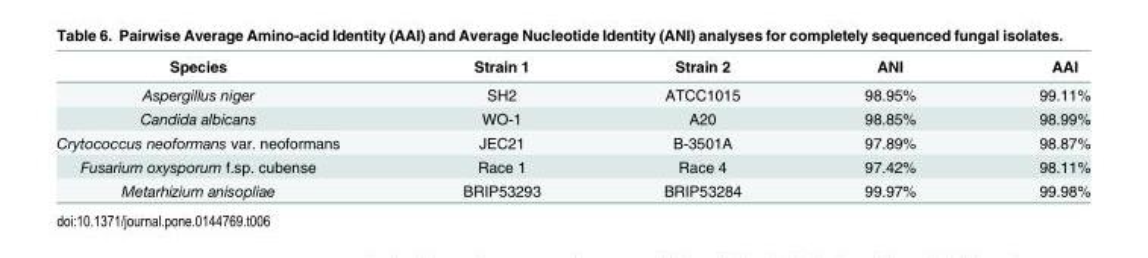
<table><thead><tr><td>Species</td><td>Strain 1</td><td>Strain 2</td><td>ANI</td><td>AAI</td></tr></thead><tbody><tr><td>Aspergillus niger</td><td>SH2</td><td>ATCC1015</td><td>98.95%</td><td>99.11%</td></tr><tr><td>Candida albicans</td><td>WO-1</td><td>A20</td><td>98.85%</td><td>98.99%</td></tr><tr><td>Crytococcus neoformans var. neoformans</td><td>JEC21</td><td>B-3501A</td><td>97.89%</td><td>98.87%</td></tr><tr><td>Fusarium oxysporum f.sp. cubense</td><td>Race 1</td><td>Race 4</td><td>97.42%</td><td>98.11%</td></tr><tr><td>Metarhizium anisopliae</td><td>BRIP53293</td><td>BRIP53284</td><td>99.97%</td><td>99.98%</td></tr></tbody></table>